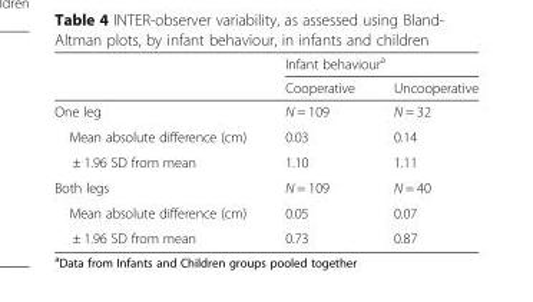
<table><thead><tr><td rowspan="2"></td><td colspan="2">Infant behaviour<sup>a</sup></td></tr><tr><td>Cooperative</td><td>Uncooperative</td></tr></thead><tbody><tr><td>One leg</td><td>N = 109</td><td>N = 32</td></tr><tr><td>Mean absolute difference (cm)</td><td>0.03</td><td>0.14</td></tr><tr><td>± 1.96 SD from mean</td><td>1.10</td><td>1.11</td></tr><tr><td>Both legs</td><td>N = 109</td><td>N = 40</td></tr><tr><td>Mean absolute difference (cm)</td><td>0.05</td><td>0.07</td></tr><tr><td>± 1.96 SD from mean</td><td>0.73</td><td>0.87</td></tr></tbody></table>